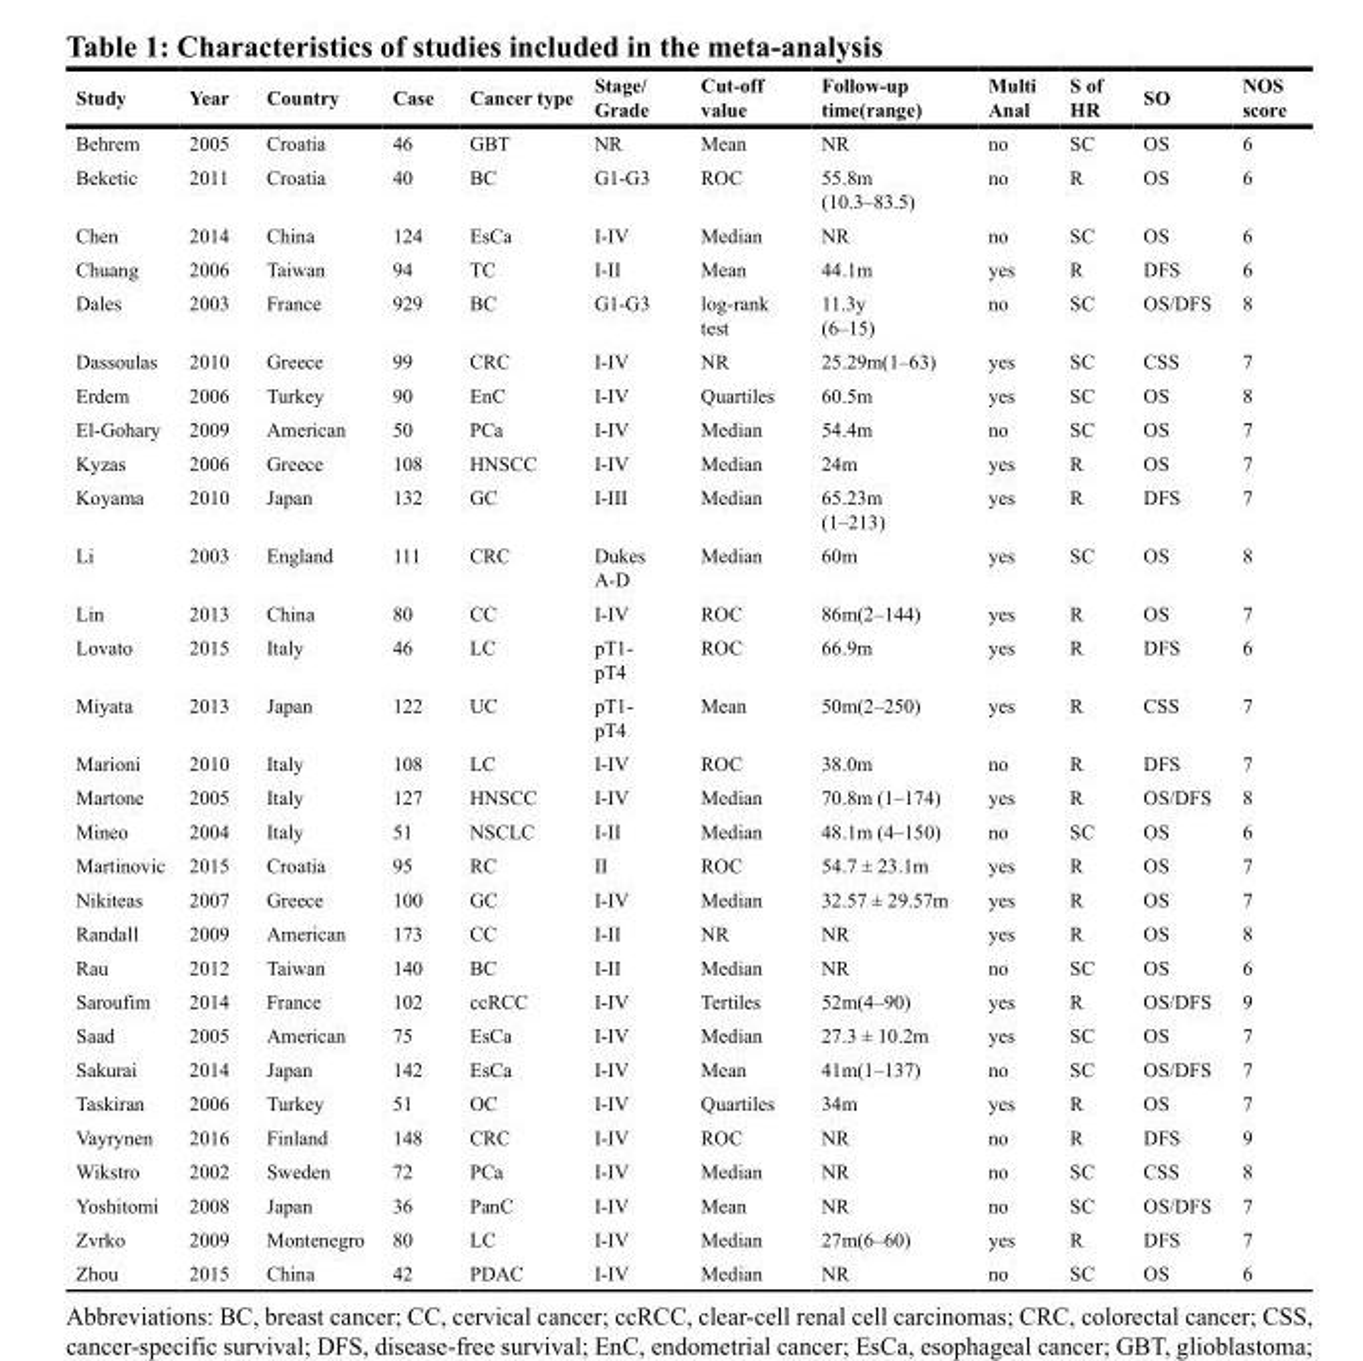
<table><thead><tr><td>Study</td><td>Year</td><td>Country</td><td>Case</td><td>Cancer type</td><td>Stage/ Grade</td><td>Cut-off value</td><td>Follow-up time(range)</td><td>Multi Anal</td><td>S of HR</td><td>SO</td><td>NOS score</td></tr></thead><tbody><tr><td>Behrem</td><td>2005</td><td>Croatia</td><td>46</td><td>GBT</td><td>NR</td><td>Mean</td><td>NR</td><td>no</td><td>SC</td><td>OS</td><td>6</td></tr><tr><td>Beketic</td><td>2011</td><td>Croatia</td><td>40</td><td>BC</td><td>G1-G3</td><td>ROC</td><td>55.8m (10.3–83.5)</td><td>no</td><td>R</td><td>OS</td><td>6</td></tr><tr><td>Chen</td><td>2014</td><td>China</td><td>124</td><td>EsCa</td><td>I-IV</td><td>Median</td><td>NR</td><td>no</td><td>SC</td><td>OS</td><td>6</td></tr><tr><td>Chuang</td><td>2006</td><td>Taiwan</td><td>94</td><td>TC</td><td>I-II</td><td>Mean</td><td>44.1m</td><td>yes</td><td>R</td><td>DFS</td><td>6</td></tr><tr><td>Dales</td><td>2003</td><td>France</td><td>929</td><td>BC</td><td>G1-G3</td><td>log-rank test</td><td>11.3y (6–15)</td><td>no</td><td>SC</td><td>OS/DFS</td><td>8</td></tr><tr><td>Dassoulas</td><td>2010</td><td>Greece</td><td>99</td><td>CRC</td><td>I-IV</td><td>NR</td><td>25.29m(1–63)</td><td>yes</td><td>SC</td><td>CSS</td><td>7</td></tr><tr><td>Erdem</td><td>2006</td><td>Turkey</td><td>90</td><td>EnC</td><td>I-IV</td><td>Quartiles</td><td>60.5m</td><td>yes</td><td>SC</td><td>OS</td><td>8</td></tr><tr><td>El-Gohary</td><td>2009</td><td>American</td><td>50</td><td>PCa</td><td>I-IV</td><td>Median</td><td>54.4m</td><td>no</td><td>SC</td><td>OS</td><td>7</td></tr><tr><td>Kyzas</td><td>2006</td><td>Greece</td><td>108</td><td>HNSCC</td><td>I-IV</td><td>Median</td><td>24m</td><td>yes</td><td>R</td><td>OS</td><td>7</td></tr><tr><td>Koyama</td><td>2010</td><td>Japan</td><td>132</td><td>GC</td><td>I-III</td><td>Median</td><td>65.23m (1–213)</td><td>yes</td><td>R</td><td>DFS</td><td>7</td></tr><tr><td>Li</td><td>2003</td><td>England</td><td>111</td><td>CRC</td><td>Dukes A-D</td><td>Median</td><td>60m</td><td>yes</td><td>SC</td><td>OS</td><td>8</td></tr><tr><td>Lin</td><td>2013</td><td>China</td><td>80</td><td>CC</td><td>I-IV</td><td>ROC</td><td>86m(2–144)</td><td>yes</td><td>R</td><td>OS</td><td>7</td></tr><tr><td>Lovato</td><td>2015</td><td>Italy</td><td>46</td><td>LC</td><td>pT1- pT4</td><td>ROC</td><td>66.9m</td><td>yes</td><td>R</td><td>DFS</td><td>6</td></tr><tr><td>Miyata</td><td>2013</td><td>Japan</td><td>122</td><td>UC</td><td>pT1- pT4</td><td>Mean</td><td>50m(2–250)</td><td>yes</td><td>R</td><td>CSS</td><td>7</td></tr><tr><td>Marioni</td><td>2010</td><td>Italy</td><td>108</td><td>LC</td><td>I-IV</td><td>ROC</td><td>38.0m</td><td>no</td><td>R</td><td>DFS</td><td>7</td></tr><tr><td>Martone</td><td>2005</td><td>Italy</td><td>127</td><td>HNSCC</td><td>I-IV</td><td>Median</td><td>70.8m (1–174)</td><td>yes</td><td>R</td><td>OS/DFS</td><td>8</td></tr><tr><td>Mineo</td><td>2004</td><td>Italy</td><td>51</td><td>NSCLC</td><td>I-II</td><td>Median</td><td>48.1m (4–150)</td><td>no</td><td>SC</td><td>OS</td><td>6</td></tr><tr><td>Martinovic</td><td>2015</td><td>Croatia</td><td>95</td><td>RC</td><td>II</td><td>ROC</td><td>54.7 ± 23.1m</td><td>yes</td><td>R</td><td>OS</td><td>7</td></tr><tr><td>Nikiteas</td><td>2007</td><td>Greece</td><td>100</td><td>GC</td><td>I-IV</td><td>Median</td><td>32.57 ± 29.57m</td><td>yes</td><td>R</td><td>OS</td><td>7</td></tr><tr><td>Randall</td><td>2009</td><td>American</td><td>173</td><td>CC</td><td>I-II</td><td>NR</td><td>NR</td><td>yes</td><td>R</td><td>OS</td><td>8</td></tr><tr><td>Rau</td><td>2012</td><td>Taiwan</td><td>140</td><td>BC</td><td>I-II</td><td>Median</td><td>NR</td><td>no</td><td>SC</td><td>OS</td><td>6</td></tr><tr><td>Saroufim</td><td>2014</td><td>France</td><td>102</td><td>ccRCC</td><td>I-IV</td><td>Tertiles</td><td>52m(4–90)</td><td>yes</td><td>R</td><td>OS/DFS</td><td>9</td></tr><tr><td>Saad</td><td>2005</td><td>American</td><td>75</td><td>EsCa</td><td>I-IV</td><td>Median</td><td>27.3 ± 10.2m</td><td>yes</td><td>SC</td><td>OS</td><td>7</td></tr><tr><td>Sakurai</td><td>2014</td><td>Japan</td><td>142</td><td>EsCa</td><td>I-IV</td><td>Mean</td><td>41m(1–137)</td><td>no</td><td>SC</td><td>OS/DFS</td><td>7</td></tr><tr><td>Taskiran</td><td>2006</td><td>Turkey</td><td>51</td><td>OC</td><td>I-IV</td><td>Quartiles</td><td>34m</td><td>yes</td><td>R</td><td>OS</td><td>7</td></tr><tr><td>Vayrynen</td><td>2016</td><td>Finland</td><td>148</td><td>CRC</td><td>I-IV</td><td>ROC</td><td>NR</td><td>no</td><td>R</td><td>DFS</td><td>9</td></tr><tr><td>Wikstro</td><td>2002</td><td>Sweden</td><td>72</td><td>PCa</td><td>I-IV</td><td>Median</td><td>NR</td><td>no</td><td>SC</td><td>CSS</td><td>8</td></tr><tr><td>Yoshitomi</td><td>2008</td><td>Japan</td><td>36</td><td>PanC</td><td>I-IV</td><td>Mean</td><td>NR</td><td>no</td><td>SC</td><td>OS/DFS</td><td>7</td></tr><tr><td>Zvrko</td><td>2009</td><td>Montenegro</td><td>80</td><td>LC</td><td>I-IV</td><td>Median</td><td>27m(6–60)</td><td>yes</td><td>R</td><td>DFS</td><td>7</td></tr><tr><td>Zhou</td><td>2015</td><td>China</td><td>42</td><td>PDAC</td><td>I-IV</td><td>Median</td><td>NR</td><td>no</td><td>SC</td><td>OS</td><td>6</td></tr></tbody></table>